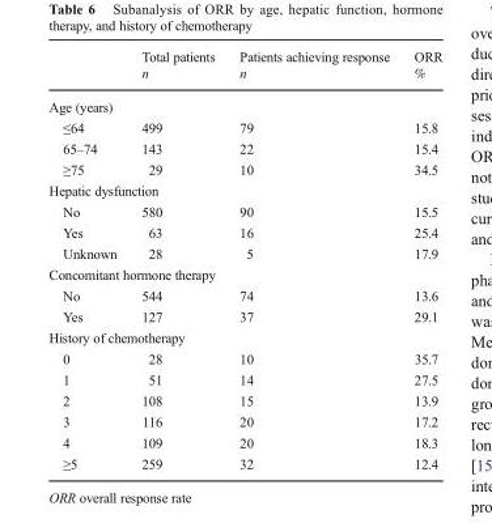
<table><thead><tr><td></td><td>Total patients n</td><td>Patients achieving response n</td><td>ORR %</td></tr></thead><tbody><tr><td colspan="4">Age (years)</td></tr><tr><td>≤64</td><td>499</td><td>79</td><td>15.8</td></tr><tr><td>65–74</td><td>143</td><td>22</td><td>15.4</td></tr><tr><td>≥75</td><td>29</td><td>10</td><td>34.5</td></tr><tr><td colspan="4">Hepatic dysfunction</td></tr><tr><td>No</td><td>580</td><td>90</td><td>15.5</td></tr><tr><td>Yes</td><td>63</td><td>16</td><td>25.4</td></tr><tr><td>Unknown</td><td>28</td><td>5</td><td>17.9</td></tr><tr><td colspan="4">Concomitant hormone therapy</td></tr><tr><td>No</td><td>544</td><td>74</td><td>13.6</td></tr><tr><td>Yes</td><td>127</td><td>37</td><td>29.1</td></tr><tr><td colspan="4">History of chemotherapy</td></tr><tr><td>0</td><td>28</td><td>10</td><td>35.7</td></tr><tr><td>1</td><td>51</td><td>14</td><td>27.5</td></tr><tr><td>2</td><td>108</td><td>15</td><td>13.9</td></tr><tr><td>3</td><td>116</td><td>20</td><td>17.2</td></tr><tr><td>4</td><td>109</td><td>20</td><td>18.3</td></tr><tr><td>≥5</td><td>259</td><td>32</td><td>12.4</td></tr></tbody></table>